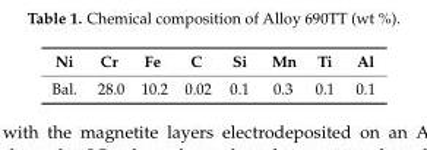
<table><thead><tr><td>Ni</td><td>Cr</td><td>Fe</td><td>C</td><td>Si</td><td>Mn</td><td>Ti</td><td>Al</td></tr></thead><tbody><tr><td>Bal.</td><td>28.0</td><td>10.2</td><td>0.02</td><td>0.1</td><td>0.3</td><td>0.1</td><td>0.1</td></tr></tbody></table>